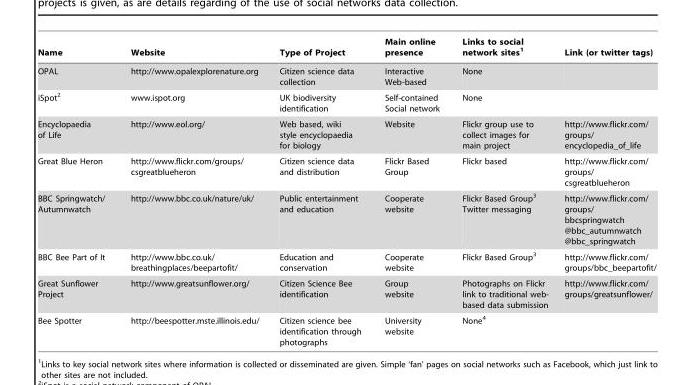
<table><thead><tr><td>Name</td><td>Website</td><td>Type of Project</td><td>Main online presence</td><td>Links to social network sites<sup>1</sup></td><td>Link (or twitter tags)</td></tr></thead><tbody><tr><td>OPAL</td><td>http://www.opalexplorenature.org</td><td>Citizen science data collection</td><td>Interactive Web-based</td><td>None</td><td></td></tr><tr><td>iSpot<sup>2</sup></td><td>www.ispot.org</td><td>UK biodiversity identification</td><td>Self-contained Social network</td><td>None</td><td></td></tr><tr><td>Encyclopaedia of Life</td><td>http://www.eol.org/</td><td>Web based, wiki style encyclopaedia for biology</td><td>Website</td><td>Flickr group use to collect images for main project</td><td>http://www.flickr.com/ groups/ encyclopedia_of_life</td></tr><tr><td>Great Blue Heron</td><td>http://www.flickr.com/groups/ csgreatblueheron</td><td>Citizen science data and distribution</td><td>Flickr Based Group</td><td>Flickr based</td><td>http://www.flickr.com/ groups/ csgreatblueheron</td></tr><tr><td>BBC Springwatch/ Autumnwatch</td><td>http://www.bbc.co.uk/nature/uk/</td><td>Public entertainment and education</td><td>Cooperate website</td><td>Flickr Based Group<sup>3</sup> Twitter messaging</td><td>http://www.flickr.com/ groups/ bbcspringwatch @bbc_autumnwatch @bbc_springwatch</td></tr><tr><td>BBC Bee Part of It</td><td>http://www.bbc.co.uk/ breathingplaces/beepartofit/</td><td>Education and conservation</td><td>Cooperate website</td><td>Flickr Based Group<sup>3</sup></td><td>http://www.flickr.com/ groups/bbc_beepartofit/</td></tr><tr><td>Great Sunflower Project</td><td>http://www.greatsunflower.org/</td><td>Citizen Science Bee identification</td><td>Group website</td><td>Photographs on Flickr link to traditional web- based data submission</td><td>http://www.flickr.com/ groups/greatsunflower/</td></tr><tr><td>Bee Spotter</td><td>http://beespotter.mste.illinois.edu/</td><td>Citizen science bee identification through photographs</td><td>University website</td><td>None<sup>4</sup></td><td></td></tr></tbody></table>